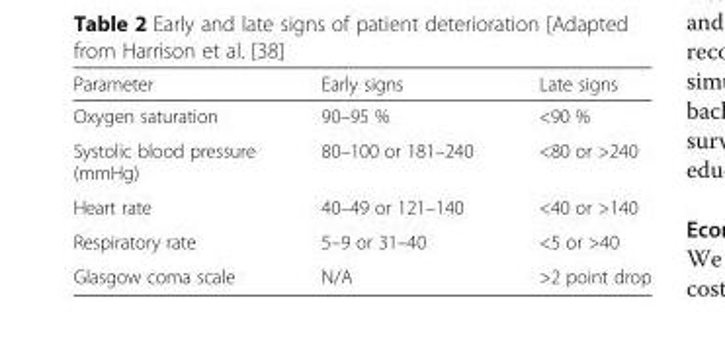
<table><thead><tr><td>Parameter</td><td>Early signs</td><td>Late signs</td></tr></thead><tbody><tr><td>Oxygen saturation</td><td>90–95 %</td><td>&lt;90 %</td></tr><tr><td>Systolic blood pressure (mmHg)</td><td>80–100 or 181–240</td><td>&lt;80 or &gt;240</td></tr><tr><td>Heart rate</td><td>40–49 or 121–140</td><td>&lt;40 or &gt;140</td></tr><tr><td>Respiratory rate</td><td>5–9 or 31–40</td><td>&lt;5 or &gt;40</td></tr><tr><td>Glasgow coma scale</td><td>N/A</td><td>&gt;2 point drop</td></tr></tbody></table>